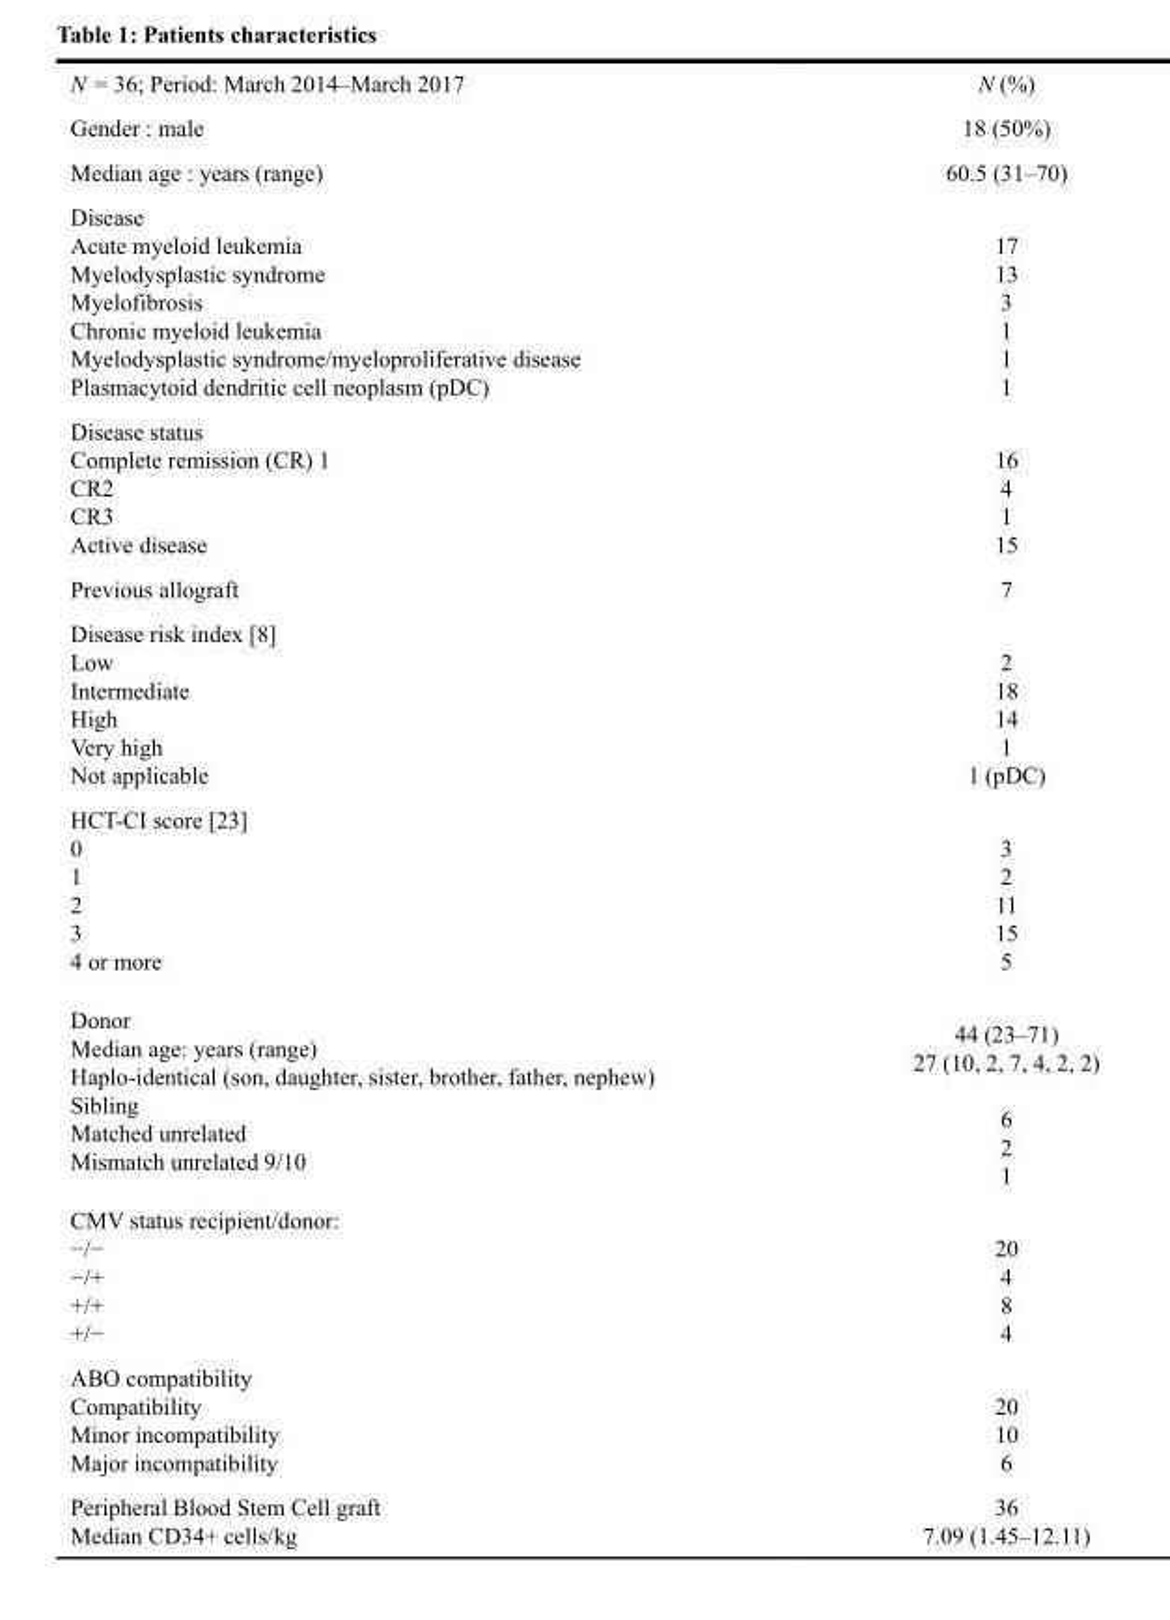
<table><tbody><tr><td>N = 36; Period: March 2014–March 2017</td><td>N (%)</td></tr><tr><td>Gender : male</td><td>18 (50%)</td></tr><tr><td>Median age : years (range)</td><td>60.5 (31–70)</td></tr><tr><td>Disease Acute myeloid leukemia Myelodysplastic syndrome Myelofibrosis Chronic myeloid leukemia Myelodysplastic syndrome/myeloproliferative disease Plasmacytoid dendritic cell neoplasm (pDC)</td><td>17 13 3 1 1 1</td></tr><tr><td>Disease status Complete remission (CR) 1 CR2 CR3 Active disease</td><td>16 4 1 15</td></tr><tr><td>Previous allograft</td><td>7</td></tr><tr><td>Disease risk index [8] Low Intermediate High Very high Not applicable</td><td>2 18 14 1 1 (pDC)</td></tr><tr><td>HCT-CI score [23] 0 1 2 3 4 or more</td><td>3 2 11 15 5</td></tr><tr><td>Donor Median age: years (range) Haplo-identical (son, daughter, sister, brother, father, nephew) Sibling Matched unrelated Mismatch unrelated 9/10</td><td>44 (23–71) 27 (10, 2, 7, 4, 2, 2) 6 2 1</td></tr><tr><td>CMV status recipient/donor: −/− −/+ +/+ +/−</td><td>20 4 8 4</td></tr><tr><td>ABO compatibility Compatibility Minor incompatibility Major incompatibility</td><td>20 10 6</td></tr><tr><td>Peripheral Blood Stem Cell graft Median CD34+ cells/kg</td><td>36 7.09 (1.45–12.11)</td></tr></tbody></table>